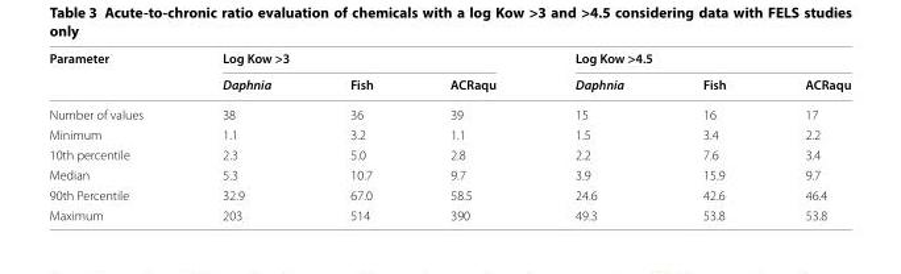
<table><thead><tr><td rowspan="2">Parameter</td><td colspan="3">Log Kow &gt;3</td><td colspan="3">Log Kow &gt;4.5</td></tr><tr><td>Daphnia</td><td>Fish</td><td>ACRaqu</td><td>Daphnia</td><td>Fish</td><td>ACRaqu</td></tr></thead><tbody><tr><td>Number of values</td><td>38</td><td>36</td><td>39</td><td>15</td><td>16</td><td>17</td></tr><tr><td>Minimum</td><td>1.1</td><td>3.2</td><td>1.1</td><td>1.5</td><td>3.4</td><td>2.2</td></tr><tr><td>10th percentile</td><td>2.3</td><td>5.0</td><td>2.8</td><td>2.2</td><td>7.6</td><td>3.4</td></tr><tr><td>Median</td><td>5.3</td><td>10.7</td><td>9.7</td><td>3.9</td><td>15.9</td><td>9.7</td></tr><tr><td>90th Percentile</td><td>32.9</td><td>67.0</td><td>58.5</td><td>24.6</td><td>42.6</td><td>46.4</td></tr><tr><td>Maximum</td><td>203</td><td>514</td><td>390</td><td>49.3</td><td>53.8</td><td>53.8</td></tr></tbody></table>